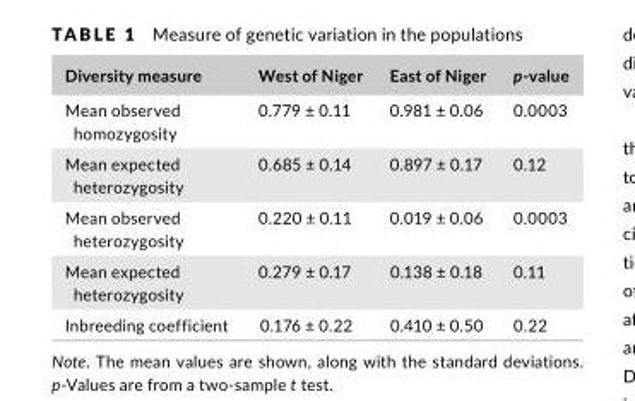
<table><thead><tr><td>Diversity measure</td><td>West of Niger</td><td>East of Niger</td><td>p- value</td></tr></thead><tbody><tr><td>Mean observed homozygosity</td><td>0.779 ± 0.11</td><td>0.981 ± 0.06</td><td>0.0003</td></tr><tr><td>Mean expected heterozygosity</td><td>0.685 ± 0.14</td><td>0.897 ± 0.17</td><td>0.12</td></tr><tr><td>Mean observed heterozygosity</td><td>0.220 ± 0.11</td><td>0.019 ± 0.06</td><td>0.0003</td></tr><tr><td>Mean expected heterozygosity</td><td>0.279 ± 0.17</td><td>0.138 ± 0.18</td><td>0.11</td></tr><tr><td>Inbreeding coefficient</td><td>0.176 ± 0.22</td><td>0.410 ± 0.50</td><td>0.22</td></tr></tbody></table>